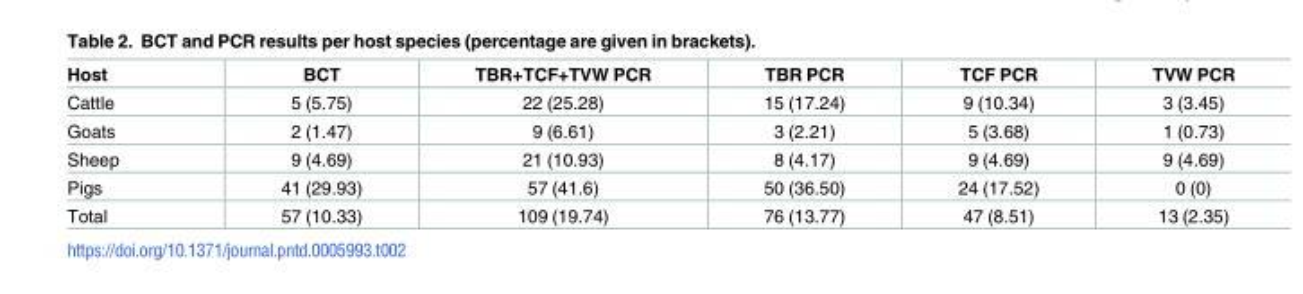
<table><thead><tr><td>Host</td><td>BCT</td><td>TBR+TCF+TVW PCR</td><td>TBR PCR</td><td>TCF PCR</td><td>TVW PCR</td></tr></thead><tbody><tr><td>Cattle</td><td>5 (5.75)</td><td>22 (25.28)</td><td>15 (17.24)</td><td>9 (10.34)</td><td>3 (3.45)</td></tr><tr><td>Goats</td><td>2 (1.47)</td><td>9 (6.61)</td><td>3 (2.21)</td><td>5 (3.68)</td><td>1 (0.73)</td></tr><tr><td>Sheep</td><td>9 (4.69)</td><td>21 (10.93)</td><td>8 (4.17)</td><td>9 (4.69)</td><td>9 (4.69)</td></tr><tr><td>Pigs</td><td>41 (29.93)</td><td>57 (41.6)</td><td>50 (36.50)</td><td>24 (17.52)</td><td>0 (0)</td></tr><tr><td>Total</td><td>57 (10.33)</td><td>109 (19.74)</td><td>76 (13.77)</td><td>47 (8.51)</td><td>13 (2.35)</td></tr></tbody></table>